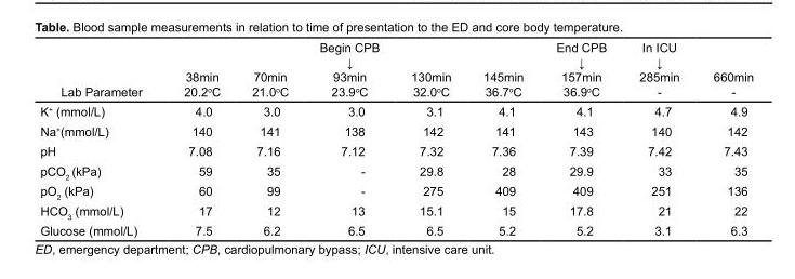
<table><thead><tr><td>Lab Parameter</td><td>38min 20.2°C</td><td>70min 21.0°C</td><td>Begin CPB ↓ 93min 23.9°C</td><td>130min 32.0°C</td><td>145min 36.7°C</td><td>End CPB ↓ 157min 36.9°C</td><td>In ICU ↓ 285min -</td><td>660min -</td></tr></thead><tbody><tr><td>K<sup>+</sup> (mmol/L)</td><td>4.0</td><td>3.0</td><td>3.0</td><td>3.1</td><td>4.1</td><td>4.1</td><td>4.7</td><td>4.9</td></tr><tr><td>Na<sup>+</sup>(mmol/L)</td><td>140</td><td>141</td><td>138</td><td>142</td><td>141</td><td>143</td><td>140</td><td>142</td></tr><tr><td>pH</td><td>7.08</td><td>7.16</td><td>7.12</td><td>7.32</td><td>7.36</td><td>7.39</td><td>7.42</td><td>7.43</td></tr><tr><td>pCO<sub>2</sub> (kPa)</td><td>59</td><td>35</td><td>-</td><td>29.8</td><td>28</td><td>29.9</td><td>33</td><td>35</td></tr><tr><td>pO<sub>2</sub> (kPa)</td><td>60</td><td>99</td><td>-</td><td>275</td><td>409</td><td>409</td><td>251</td><td>136</td></tr><tr><td>HCO<sub>3</sub> (mmol/L)</td><td>17</td><td>12</td><td>13</td><td>15.1</td><td>15</td><td>17.8</td><td>21</td><td>22</td></tr><tr><td>Glucose (mmol/L)</td><td>7.5</td><td>6.2</td><td>6.5</td><td>6.5</td><td>5.2</td><td>5.2</td><td>3.1</td><td>6.3</td></tr></tbody></table>